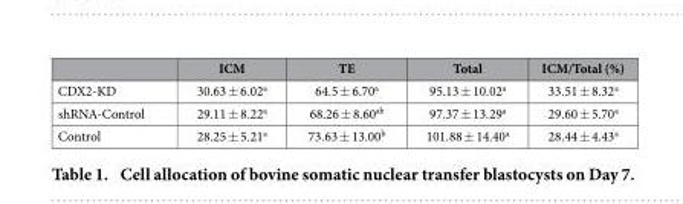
<table><thead><tr><td></td><td>ICM</td><td>TE</td><td>Total</td><td>ICM/Total (%)</td></tr></thead><tbody><tr><td>CDX2-KD</td><td>30.63 ± 6.02<sup>a</sup></td><td>64.5 ± 6.70<sup>a</sup></td><td>95.13 ± 10.02<sup>a</sup></td><td>33.51 ± 8.32<sup>a</sup></td></tr><tr><td>shRNA-Control</td><td>29.11 ± 8.22<sup>a</sup></td><td>68.26 ± 8.60<sup>ab</sup></td><td>97.37 ± 13.29<sup>a</sup></td><td>29.60 ± 5.70<sup>a</sup></td></tr><tr><td>Control</td><td>28.25 ± 5.21<sup>a</sup></td><td>73.63 ± 13.00<sup>b</sup></td><td>101.88 ± 14.40<sup>a</sup></td><td>28.44 ± 4.43<sup>a</sup></td></tr></tbody></table>